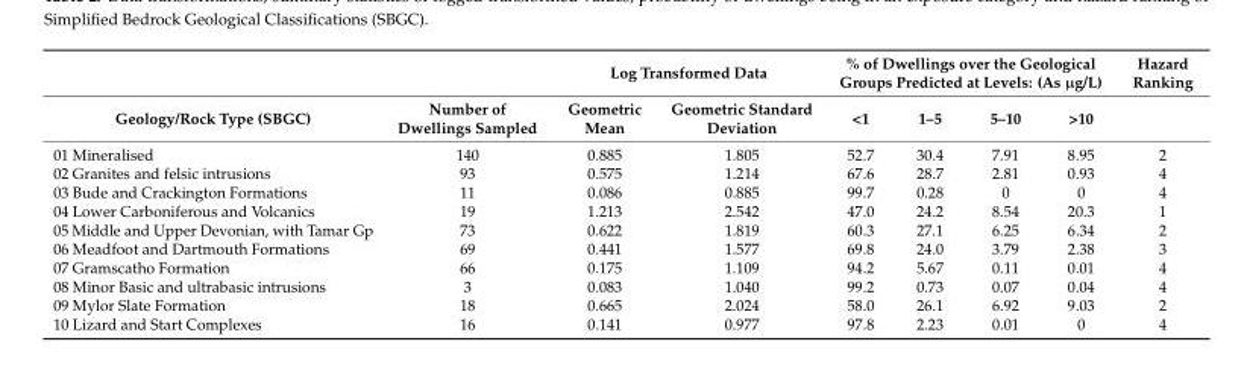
<table><thead><tr><td rowspan="2">Geology/Rock Type (SBGC)</td><td rowspan="2">Number of Dwellings Sampled</td><td colspan="2">Log Transformed Data</td><td colspan="4">% of Dwellings over the Geological Groups Predicted at Levels: (As µg/L)</td><td rowspan="2">Hazard Ranking</td></tr><tr><td>Geometric Mean</td><td>Geometric Standard Deviation</td><td>&lt;1</td><td>1–5</td><td>5–10</td><td>&gt;10</td></tr></thead><tbody><tr><td>01 Mineralised</td><td>140</td><td>0.885</td><td>1.805</td><td>52.7</td><td>30.4</td><td>7.91</td><td>8.95</td><td>2</td></tr><tr><td>02 Granites and felsic intrusions</td><td>93</td><td>0.575</td><td>1.214</td><td>67.6</td><td>28.7</td><td>2.81</td><td>0.93</td><td>4</td></tr><tr><td>03 Bude and Crackington Formations</td><td>11</td><td>0.086</td><td>0.885</td><td>99.7</td><td>0.28</td><td>0</td><td>0</td><td>4</td></tr><tr><td>04 Lower Carboniferous and Volcanics</td><td>19</td><td>1.213</td><td>2.542</td><td>47.0</td><td>24.2</td><td>8.54</td><td>20.3</td><td>1</td></tr><tr><td>05 Middle and Upper Devonian, with Tamar Gp</td><td>73</td><td>0.622</td><td>1.819</td><td>60.3</td><td>27.1</td><td>6.25</td><td>6.34</td><td>2</td></tr><tr><td>06 Meadfoot and Dartmouth Formations</td><td>69</td><td>0.441</td><td>1.577</td><td>69.8</td><td>24.0</td><td>3.79</td><td>2.38</td><td>3</td></tr><tr><td>07 Gramscatho Formation</td><td>66</td><td>0.175</td><td>1.109</td><td>94.2</td><td>5.67</td><td>0.11</td><td>0.01</td><td>4</td></tr><tr><td>08 Minor Basic and ultrabasic intrusions</td><td>3</td><td>0.083</td><td>1.040</td><td>99.2</td><td>0.73</td><td>0.07</td><td>0.04</td><td>4</td></tr><tr><td>09 Mylor Slate Formation</td><td>18</td><td>0.665</td><td>2.024</td><td>58.0</td><td>26.1</td><td>6.92</td><td>9.03</td><td>2</td></tr><tr><td>10 Lizard and Start Complexes</td><td>16</td><td>0.141</td><td>0.977</td><td>97.8</td><td>2.23</td><td>0.01</td><td>0</td><td>4</td></tr></tbody></table>